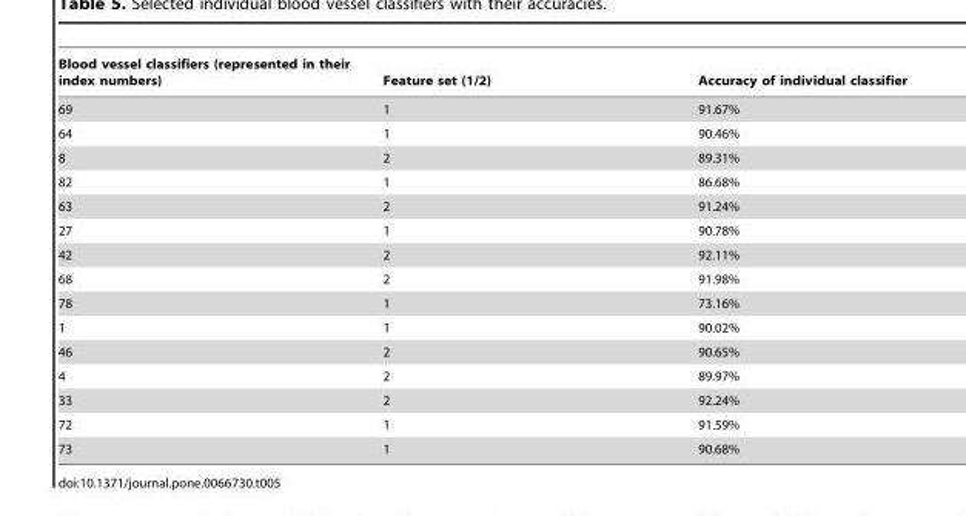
<table><thead><tr><td>Blood vessel classifiers (represented in their index numbers)</td><td>Feature set (1/2)</td><td>Accuracy of individual classifier</td></tr></thead><tbody><tr><td>69</td><td>1</td><td>91.67%</td></tr><tr><td>64</td><td>1</td><td>90.46%</td></tr><tr><td>8</td><td>2</td><td>89.31%</td></tr><tr><td>82</td><td>1</td><td>86.68%</td></tr><tr><td>63</td><td>2</td><td>91.24%</td></tr><tr><td>27</td><td>1</td><td>90.78%</td></tr><tr><td>42</td><td>2</td><td>92.11%</td></tr><tr><td>68</td><td>2</td><td>91.98%</td></tr><tr><td>78</td><td>1</td><td>73.16%</td></tr><tr><td>1</td><td>1</td><td>90.02%</td></tr><tr><td>46</td><td>2</td><td>90.65%</td></tr><tr><td>4</td><td>2</td><td>89.97%</td></tr><tr><td>33</td><td>2</td><td>92.24%</td></tr><tr><td>72</td><td>1</td><td>91.59%</td></tr><tr><td>73</td><td>1</td><td>90.68%</td></tr></tbody></table>